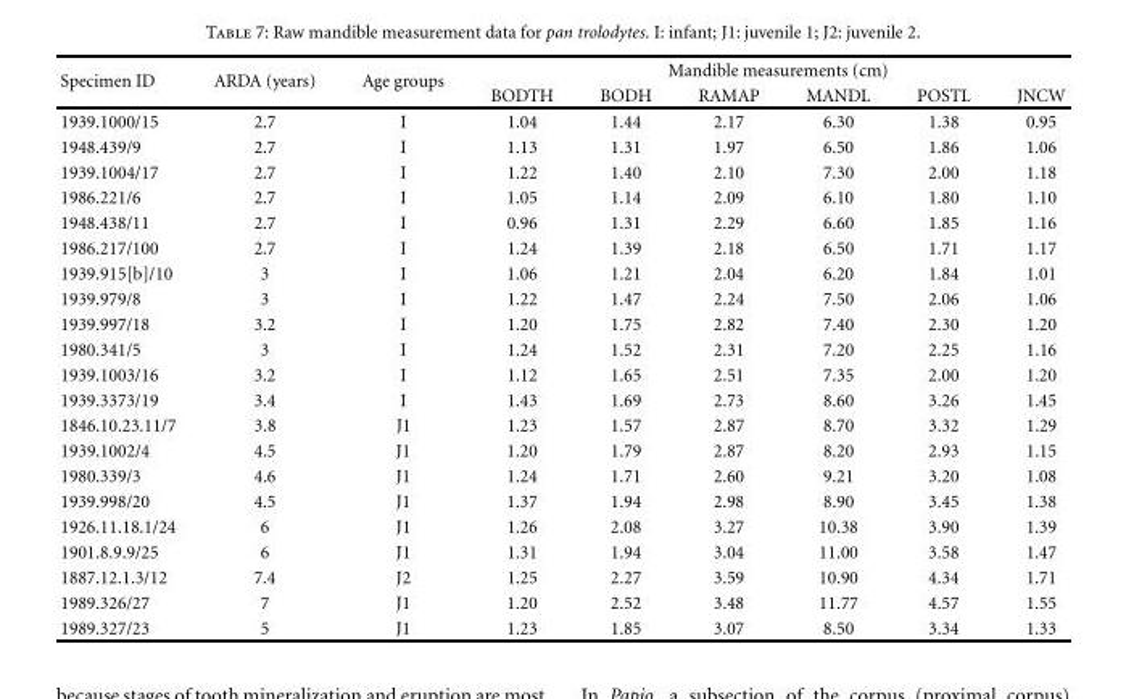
<table><thead><tr><td rowspan="2">Specimen ID</td><td rowspan="2">ARDA (years)</td><td rowspan="2">Age groups</td><td colspan="6">Mandible measurements (cm)</td></tr><tr><td>BODTH</td><td>BODH</td><td>RAMAP</td><td>MANDL</td><td>POSTL</td><td>JNCW</td></tr></thead><tbody><tr><td>1939.1000/15</td><td>2.7</td><td>I</td><td>1.04</td><td>1.44</td><td>2.17</td><td>6.30</td><td>1.38</td><td>0.95</td></tr><tr><td>1948.439/9</td><td>2.7</td><td>I</td><td>1.13</td><td>1.31</td><td>1.97</td><td>6.50</td><td>1.86</td><td>1.06</td></tr><tr><td>1939.1004/17</td><td>2.7</td><td>I</td><td>1.22</td><td>1.40</td><td>2.10</td><td>7.30</td><td>2.00</td><td>1.18</td></tr><tr><td>1986.221/6</td><td>2.7</td><td>I</td><td>1.05</td><td>1.14</td><td>2.09</td><td>6.10</td><td>1.80</td><td>1.10</td></tr><tr><td>1948.438/11</td><td>2.7</td><td>I</td><td>0.96</td><td>1.31</td><td>2.29</td><td>6.60</td><td>1.85</td><td>1.16</td></tr><tr><td>1986.217/100</td><td>2.7</td><td>I</td><td>1.24</td><td>1.39</td><td>2.18</td><td>6.50</td><td>1.71</td><td>1.17</td></tr><tr><td>1939.915[b]/10</td><td>3</td><td>I</td><td>1.06</td><td>1.21</td><td>2.04</td><td>6.20</td><td>1.84</td><td>1.01</td></tr><tr><td>1939.979/8</td><td>3</td><td>I</td><td>1.22</td><td>1.47</td><td>2.24</td><td>7.50</td><td>2.06</td><td>1.06</td></tr><tr><td>1939.997/18</td><td>3.2</td><td>I</td><td>1.20</td><td>1.75</td><td>2.82</td><td>7.40</td><td>2.30</td><td>1.20</td></tr><tr><td>1980.341/5</td><td>3</td><td>I</td><td>1.24</td><td>1.52</td><td>2.31</td><td>7.20</td><td>2.25</td><td>1.16</td></tr><tr><td>1939.1003/16</td><td>3.2</td><td>I</td><td>1.12</td><td>1.65</td><td>2.51</td><td>7.35</td><td>2.00</td><td>1.20</td></tr><tr><td>1939.3373/19</td><td>3.4</td><td>I</td><td>1.43</td><td>1.69</td><td>2.73</td><td>8.60</td><td>3.26</td><td>1.45</td></tr><tr><td>1846.10.23.11/7</td><td>3.8</td><td>J1</td><td>1.23</td><td>1.57</td><td>2.87</td><td>8.70</td><td>3.32</td><td>1.29</td></tr><tr><td>1939.1002/4</td><td>4.5</td><td>J1</td><td>1.20</td><td>1.79</td><td>2.87</td><td>8.20</td><td>2.93</td><td>1.15</td></tr><tr><td>1980.339/3</td><td>4.6</td><td>J1</td><td>1.24</td><td>1.71</td><td>2.60</td><td>9.21</td><td>3.20</td><td>1.08</td></tr><tr><td>1939.998/20</td><td>4.5</td><td>J1</td><td>1.37</td><td>1.94</td><td>2.98</td><td>8.90</td><td>3.45</td><td>1.38</td></tr><tr><td>1926.11.18.1/24</td><td>6</td><td>J1</td><td>1.26</td><td>2.08</td><td>3.27</td><td>10.38</td><td>3.90</td><td>1.39</td></tr><tr><td>1901.8.9.9/25</td><td>6</td><td>J1</td><td>1.31</td><td>1.94</td><td>3.04</td><td>11.00</td><td>3.58</td><td>1.47</td></tr><tr><td>1887.12.1.3/12</td><td>7.4</td><td>J2</td><td>1.25</td><td>2.27</td><td>3.59</td><td>10.90</td><td>4.34</td><td>1.71</td></tr><tr><td>1989.326/27</td><td>7</td><td>J1</td><td>1.20</td><td>2.52</td><td>3.48</td><td>11.77</td><td>4.57</td><td>1.55</td></tr><tr><td>1989.327/23</td><td>5</td><td>J1</td><td>1.23</td><td>1.85</td><td>3.07</td><td>8.50</td><td>3.34</td><td>1.33</td></tr></tbody></table>